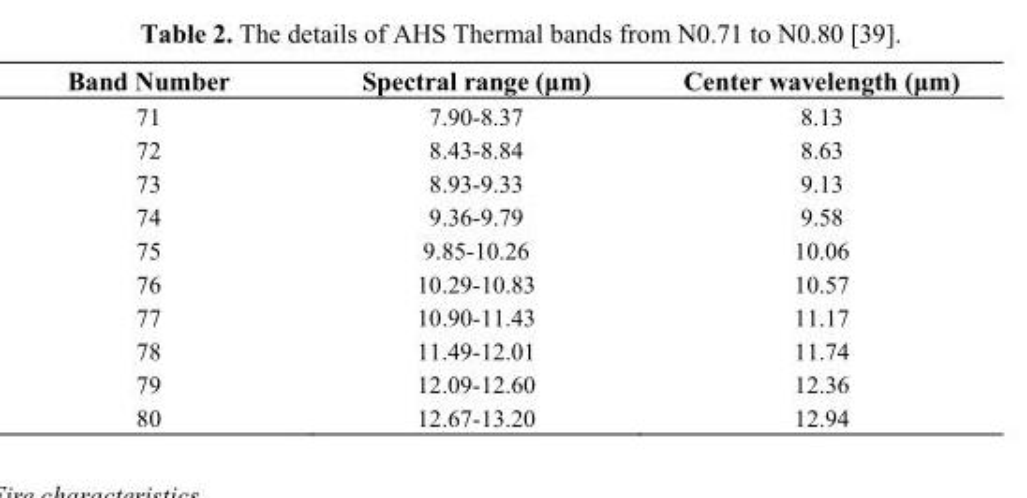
<table><thead><tr><td>Band Number</td><td>Spectral range (μm)</td><td>Center wavelength (μm)</td></tr></thead><tbody><tr><td>71</td><td>7.90-8.37</td><td>8.13</td></tr><tr><td>72</td><td>8.43-8.84</td><td>8.63</td></tr><tr><td>73</td><td>8.93-9.33</td><td>9.13</td></tr><tr><td>74</td><td>9.36-9.79</td><td>9.58</td></tr><tr><td>75</td><td>9.85-10.26</td><td>10.06</td></tr><tr><td>76</td><td>10.29-10.83</td><td>10.57</td></tr><tr><td>77</td><td>10.90-11.43</td><td>11.17</td></tr><tr><td>78</td><td>11.49-12.01</td><td>11.74</td></tr><tr><td>79</td><td>12.09-12.60</td><td>12.36</td></tr><tr><td>80</td><td>12.67-13.20</td><td>12.94</td></tr></tbody></table>